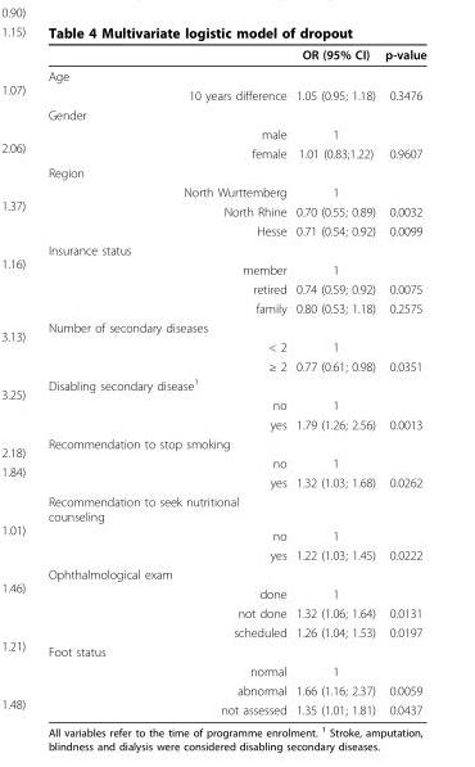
<table><thead><tr><td></td><td>OR (95% CI)</td><td>p-value</td></tr></thead><tbody><tr><td colspan="3">Age</td></tr><tr><td>10 years difference</td><td>1.05 (0.95; 1.18)</td><td>0.3476</td></tr><tr><td colspan="3">Gender</td></tr><tr><td>male</td><td>1</td><td></td></tr><tr><td>female</td><td>1.01 (0.83;1.22)</td><td>0.9607</td></tr><tr><td colspan="3">Region</td></tr><tr><td>North Wurttemberg</td><td>1</td><td></td></tr><tr><td>North Rhine</td><td>0.70 (0.55; 0.89)</td><td>0.0032</td></tr><tr><td>Hesse</td><td>0.71 (0.54; 0.92)</td><td>0.0099</td></tr><tr><td colspan="3">Insurance status</td></tr><tr><td>member</td><td>1</td><td></td></tr><tr><td>retired</td><td>0.74 (0.59; 0.92)</td><td>0.0075</td></tr><tr><td>family</td><td>0.80 (0.53; 1.18)</td><td>0.2575</td></tr><tr><td colspan="3">Number of secondary diseases</td></tr><tr><td>&lt; 2</td><td>1</td><td></td></tr><tr><td>≥ 2</td><td>0.77 (0.61; 0.98)</td><td>0.0351</td></tr><tr><td colspan="3">Disabling secondary disease<sup>1</sup></td></tr><tr><td>no</td><td>1</td><td></td></tr><tr><td>yes</td><td>1.79 (1.26; 2.56)</td><td>0.0013</td></tr><tr><td colspan="3">Recommendation to stop smoking</td></tr><tr><td>no</td><td>1</td><td></td></tr><tr><td>yes</td><td>1.32 (1.03; 1.68)</td><td>0.0262</td></tr><tr><td colspan="3">Recommendation to seek nutritional counseling</td></tr><tr><td>no</td><td>1</td><td></td></tr><tr><td>yes</td><td>1.22 (1.03; 1.45)</td><td>0.0222</td></tr><tr><td colspan="3">Ophthalmological exam</td></tr><tr><td>done</td><td>1</td><td></td></tr><tr><td>not done</td><td>1.32 (1.06; 1.64)</td><td>0.0131</td></tr><tr><td>scheduled</td><td>1.26 (1.04; 1.53)</td><td>0.0197</td></tr><tr><td colspan="3">Foot status</td></tr><tr><td>normal</td><td>1</td><td></td></tr><tr><td>abnormal</td><td>1.66 (1.16; 2.37)</td><td>0.0059</td></tr><tr><td>not assessed</td><td>1.35 (1.01; 1.81)</td><td>0.0437</td></tr></tbody></table>